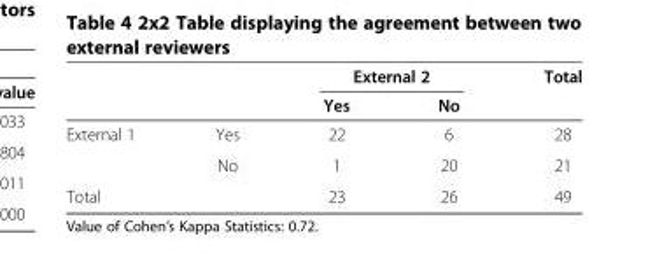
<table><thead><tr><td rowspan="2"></td><td rowspan="2"></td><td colspan="2">External 2</td><td rowspan="2">Total</td></tr><tr><td>Yes</td><td>No</td></tr></thead><tbody><tr><td rowspan="2">External 1</td><td>Yes</td><td>22</td><td>6</td><td>28</td></tr><tr><td>No</td><td>1</td><td>20</td><td>21</td></tr><tr><td colspan="2">Total</td><td>23</td><td>26</td><td>49</td></tr></tbody></table>